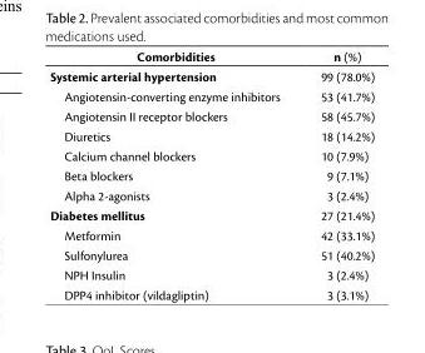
<table><thead><tr><td>Comorbidities</td><td>n (%)</td></tr></thead><tbody><tr><td>Systemic arterial hypertension</td><td>99 (78.0%)</td></tr><tr><td>Angiotensin-converting enzyme inhibitors</td><td>53 (41.7%)</td></tr><tr><td>Angiotensin II receptor blockers</td><td>58 (45.7%)</td></tr><tr><td>Diuretics</td><td>18 (14.2%)</td></tr><tr><td>Calcium channel blockers</td><td>10 (7.9%)</td></tr><tr><td>Beta blockers</td><td>9 (7.1%)</td></tr><tr><td>Alpha 2-agonists</td><td>3 (2.4%)</td></tr><tr><td>Diabetes mellitus</td><td>27 (21.4%)</td></tr><tr><td>Metformin</td><td>42 (33.1%)</td></tr><tr><td>Sulfonylurea</td><td>51 (40.2%)</td></tr><tr><td>NPH Insulin</td><td>3 (2.4%)</td></tr><tr><td>DPP4 inhibitor (vildagliptin)</td><td>3 (3.1%)</td></tr></tbody></table>